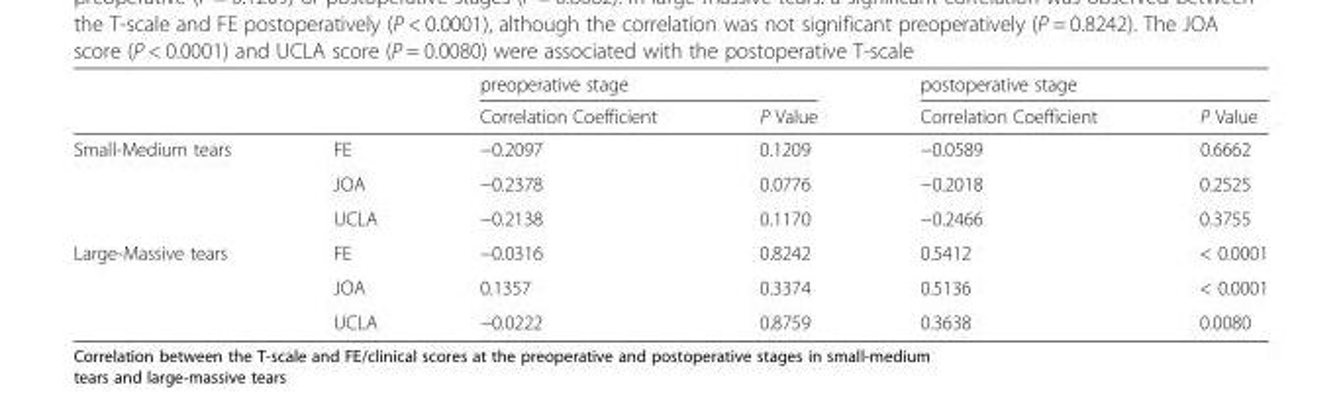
<table><thead><tr><td rowspan="2"></td><td rowspan="2"></td><td colspan="2">preoperative stage</td><td colspan="2">postoperative stage</td></tr><tr><td>Correlation Coefficient</td><td>P Value</td><td>Correlation Coefficient</td><td>P Value</td></tr></thead><tbody><tr><td rowspan="3">Small-Medium tears</td><td>FE</td><td>−0.2097</td><td>0.1209</td><td>−0.0589</td><td>0.6662</td></tr><tr><td>JOA</td><td>−0.2378</td><td>0.0776</td><td>−0.2018</td><td>0.2525</td></tr><tr><td>UCLA</td><td>−0.2138</td><td>0.1170</td><td>−0.2466</td><td>0.3755</td></tr><tr><td rowspan="3">Large-Massive tears</td><td>FE</td><td>−0.0316</td><td>0.8242</td><td>0.5412</td><td>&lt; 0.0001</td></tr><tr><td>JOA</td><td>0.1357</td><td>0.3374</td><td>0.5136</td><td>&lt; 0.0001</td></tr><tr><td>UCLA</td><td>−0.0222</td><td>0.8759</td><td>0.3638</td><td>0.0080</td></tr></tbody></table>